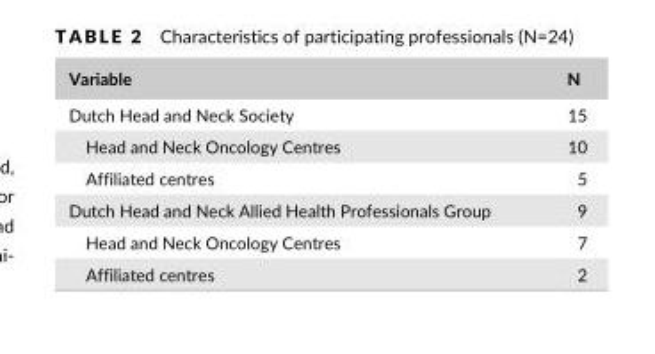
<table><thead><tr><td>Variable</td><td>N</td></tr></thead><tbody><tr><td>Dutch Head and Neck Society</td><td>15</td></tr><tr><td>Head and Neck Oncology Centres</td><td>10</td></tr><tr><td>Affiliated centres</td><td>5</td></tr><tr><td>Dutch Head and Neck Allied Health Professionals Group</td><td>9</td></tr><tr><td>Head and Neck Oncology Centres</td><td>7</td></tr><tr><td>Affiliated centres</td><td>2</td></tr></tbody></table>